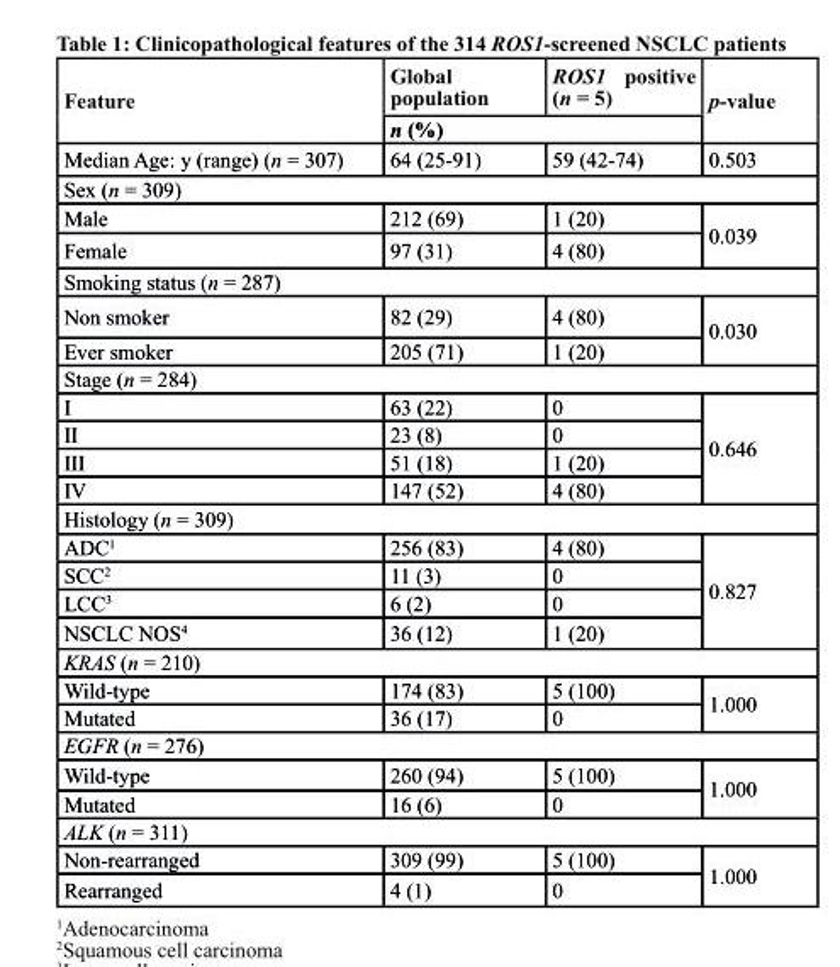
<table><thead><tr><td rowspan="2">Feature</td><td>Global population</td><td>ROS1 positive (n = 5)</td><td rowspan="2">p-value</td></tr><tr><td colspan="2">n (%)</td></tr></thead><tbody><tr><td>Median Age: y (range) (n = 307)</td><td>64 (25-91)</td><td>59 (42-74)</td><td>0.503</td></tr><tr><td colspan="4">Sex (n = 309)</td></tr><tr><td>Male</td><td>212 (69)</td><td>1 (20)</td><td rowspan="2">0.039</td></tr><tr><td>Female</td><td>97 (31)</td><td>4 (80)</td></tr><tr><td colspan="4">Smoking status (n = 287)</td></tr><tr><td>Non smoker</td><td>82 (29)</td><td>4 (80)</td><td rowspan="2">0.030</td></tr><tr><td>Ever smoker</td><td>205 (71)</td><td>1 (20)</td></tr><tr><td colspan="4">Stage (n = 284)</td></tr><tr><td>I</td><td>63 (22)</td><td>0</td><td rowspan="4">0.646</td></tr><tr><td>II</td><td>23 (8)</td><td>0</td></tr><tr><td>III</td><td>51 (18)</td><td>1 (20)</td></tr><tr><td>IV</td><td>147 (52)</td><td>4 (80)</td></tr><tr><td colspan="4">Histology (n = 309)</td></tr><tr><td>ADC<sup>1</sup></td><td>256 (83)</td><td>4 (80)</td><td rowspan="4">0.827</td></tr><tr><td>SCC<sup>2</sup></td><td>11 (3)</td><td>0</td></tr><tr><td>LCC<sup>3</sup></td><td>6 (2)</td><td>0</td></tr><tr><td>NSCLC NOS<sup>4</sup></td><td>36 (12)</td><td>1 (20)</td></tr><tr><td colspan="4">KRAS (n = 210)</td></tr><tr><td>Wild-type</td><td>174 (83)</td><td>5 (100)</td><td rowspan="2">1.000</td></tr><tr><td>Mutated</td><td>36 (17)</td><td>0</td></tr><tr><td colspan="4">EGFR (n = 276)</td></tr><tr><td>Wild-type</td><td>260 (94)</td><td>5 (100)</td><td rowspan="2">1.000</td></tr><tr><td>Mutated</td><td>16 (6)</td><td>0</td></tr><tr><td colspan="4">ALK (n = 311)</td></tr><tr><td>Non-rearranged</td><td>309 (99)</td><td>5 (100)</td><td rowspan="2">1.000</td></tr><tr><td>Rearranged</td><td>4 (1)</td><td>0</td></tr></tbody></table>